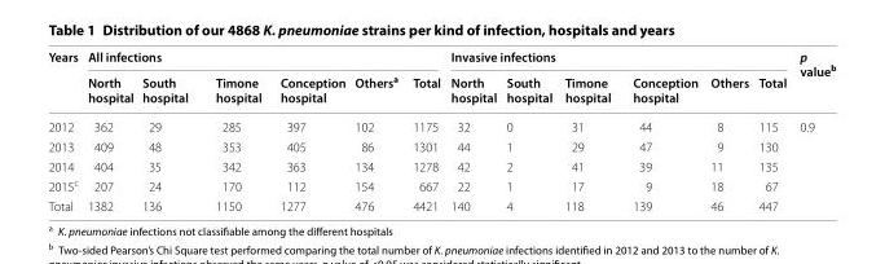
<table><thead><tr><td rowspan="2">Years</td><td colspan="6">All infections</td><td colspan="6">Invasive infections</td><td rowspan="2">p value<sup>b</sup></td></tr><tr><td>North hospital</td><td>South hospital</td><td>Timone hospital</td><td>Conception hospital</td><td>Others<sup>a</sup></td><td>Total</td><td>North hospital</td><td>South hospital</td><td>Timone hospital</td><td>Conception hospital</td><td>Others</td><td>Total</td></tr></thead><tbody><tr><td>2012</td><td>362</td><td>29</td><td>285</td><td>397</td><td>102</td><td>1175</td><td>32</td><td>0</td><td>31</td><td>44</td><td>8</td><td>115</td><td>0.9</td></tr><tr><td>2013</td><td>409</td><td>48</td><td>353</td><td>405</td><td>86</td><td>1301</td><td>44</td><td>1</td><td>29</td><td>47</td><td>9</td><td>130</td><td></td></tr><tr><td>2014</td><td>404</td><td>35</td><td>342</td><td>363</td><td>134</td><td>1278</td><td>42</td><td>2</td><td>41</td><td>39</td><td>11</td><td>135</td><td></td></tr><tr><td>2015<sup>c</sup></td><td>207</td><td>24</td><td>170</td><td>112</td><td>154</td><td>667</td><td>22</td><td>1</td><td>17</td><td>9</td><td>18</td><td>67</td><td></td></tr><tr><td>Total</td><td>1382</td><td>136</td><td>1150</td><td>1277</td><td>476</td><td>4421</td><td>140</td><td>4</td><td>118</td><td>139</td><td>46</td><td>447</td><td></td></tr></tbody></table>